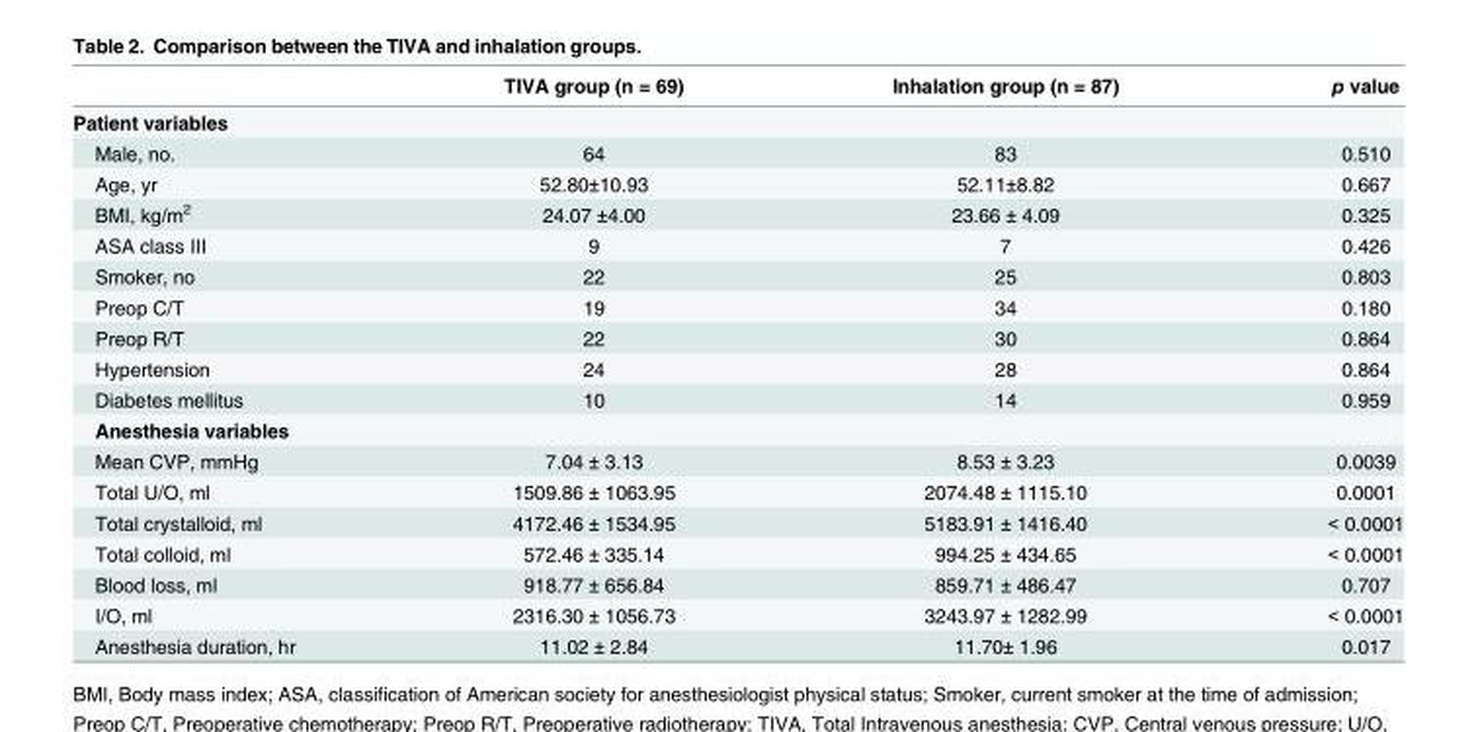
<table><thead><tr><td></td><td>TIVA group (n = 69)</td><td>Inhalation group (n = 87)</td><td>p value</td></tr></thead><tbody><tr><td colspan="4">Patient variables</td></tr><tr><td>Male, no.</td><td>64</td><td>83</td><td>0.510</td></tr><tr><td>Age, yr</td><td>52.80±10.93</td><td>52.11±8.82</td><td>0.667</td></tr><tr><td>BMI, kg/m<sup>2</sup></td><td>24.07 ±4.00</td><td>23.66 ± 4.09</td><td>0.325</td></tr><tr><td>ASA class III</td><td>9</td><td>7</td><td>0.426</td></tr><tr><td>Smoker, no</td><td>22</td><td>25</td><td>0.803</td></tr><tr><td>Preop C/T</td><td>19</td><td>34</td><td>0.180</td></tr><tr><td>Preop R/T</td><td>22</td><td>30</td><td>0.864</td></tr><tr><td>Hypertension</td><td>24</td><td>28</td><td>0.864</td></tr><tr><td>Diabetes mellitus</td><td>10</td><td>14</td><td>0.959</td></tr><tr><td colspan="4">Anesthesia variables</td></tr><tr><td>Mean CVP, mmHg</td><td>7.04 ± 3.13</td><td>8.53 ± 3.23</td><td>0.0039</td></tr><tr><td>Total U/O, ml</td><td>1509.86 ± 1063.95</td><td>2074.48 ± 1115.10</td><td>0.0001</td></tr><tr><td>Total crystalloid, ml</td><td>4172.46 ± 1534.95</td><td>5183.91 ± 1416.40</td><td>&lt; 0.0001</td></tr><tr><td>Total colloid, ml</td><td>572.46 ± 335.14</td><td>994.25 ± 434.65</td><td>&lt; 0.0001</td></tr><tr><td>Blood loss, ml</td><td>918.77 ± 656.84</td><td>859.71 ± 486.47</td><td>0.707</td></tr><tr><td>I/O, ml</td><td>2316.30 ± 1056.73</td><td>3243.97 ± 1282.99</td><td>&lt; 0.0001</td></tr><tr><td>Anesthesia duration, hr</td><td>11.02 ± 2.84</td><td>11.70± 1.96</td><td>0.017</td></tr></tbody></table>